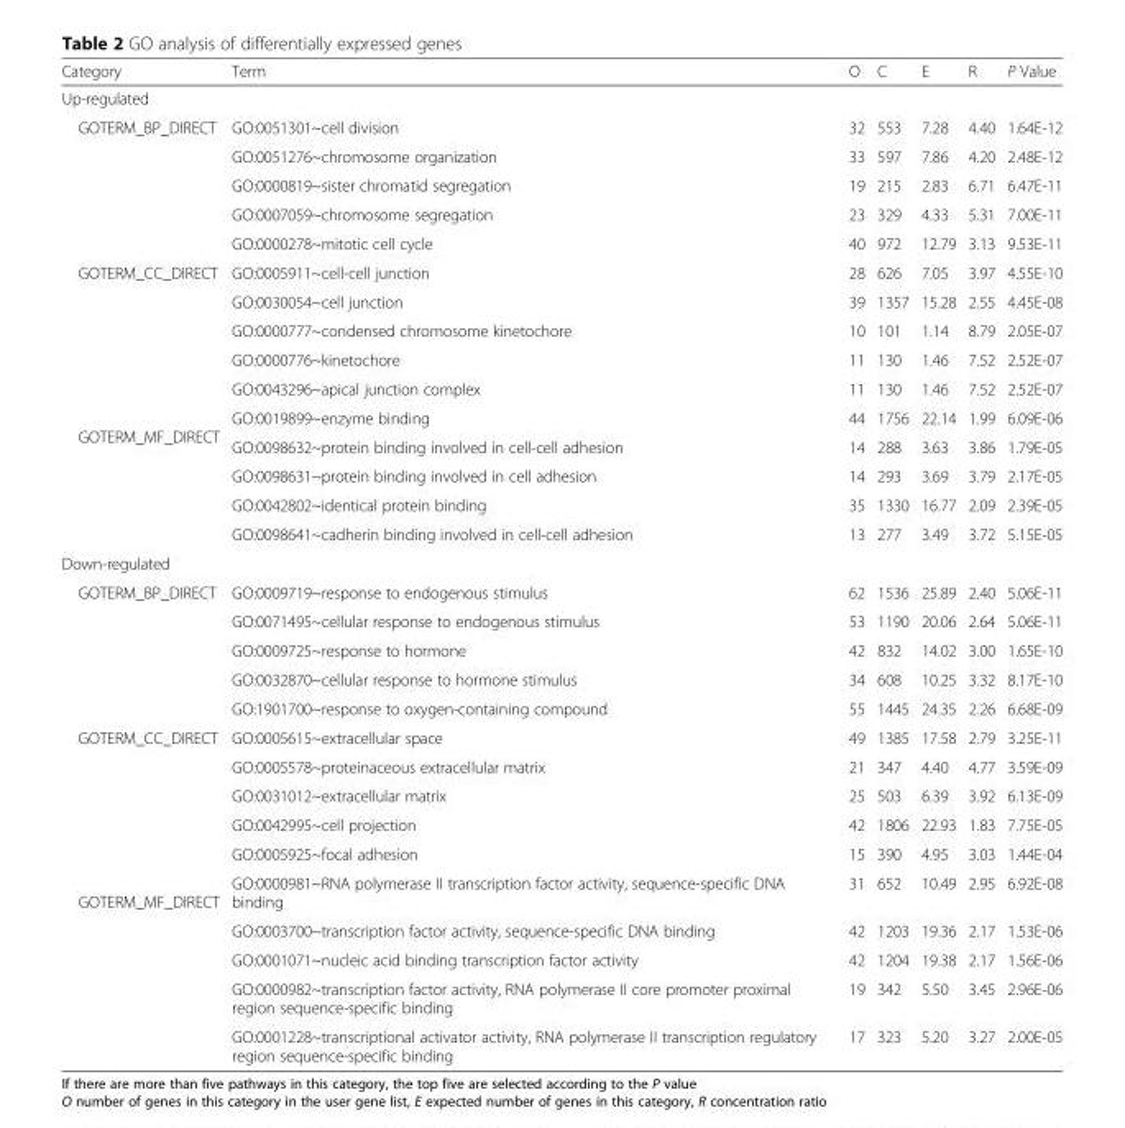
<table><thead><tr><td>Category</td><td>Term</td><td>O</td><td>C</td><td>E</td><td>R</td><td>P Value</td></tr></thead><tbody><tr><td colspan="7">Up-regulated</td></tr><tr><td rowspan="5">GOTERM_BP_DIRECT</td><td>GO:0051301~cell division</td><td>32</td><td>553</td><td>7.28</td><td>4.40</td><td>1.64E-12</td></tr><tr><td>GO:0051276~chromosome organization</td><td>33</td><td>597</td><td>7.86</td><td>4.20</td><td>2.48E-12</td></tr><tr><td>GO:0000819~sister chromatid segregation</td><td>19</td><td>215</td><td>2.83</td><td>6.71</td><td>6.47E-11</td></tr><tr><td>GO:0007059~chromosome segregation</td><td>23</td><td>329</td><td>4.33</td><td>5.31</td><td>7.00E-11</td></tr><tr><td>GO:0000278~mitotic cell cycle</td><td>40</td><td>972</td><td>12.79</td><td>3.13</td><td>9.53E-11</td></tr><tr><td rowspan="5">GOTERM_CC_DIRECT</td><td>GO:0005911~cell-cell junction</td><td>28</td><td>626</td><td>7.05</td><td>3.97</td><td>4.55E-10</td></tr><tr><td>GO:0030054~cell junction</td><td>39</td><td>1357</td><td>15.28</td><td>2.55</td><td>4.45E-08</td></tr><tr><td>GO:0000777~condensed chromosome kinetochore</td><td>10</td><td>101</td><td>1.14</td><td>8.79</td><td>2.05E-07</td></tr><tr><td>GO:0000776~kinetochore</td><td>11</td><td>130</td><td>1.46</td><td>7.52</td><td>2.52E-07</td></tr><tr><td>GO:0043296~apical junction complex</td><td>11</td><td>130</td><td>1.46</td><td>7.52</td><td>2.52E-07</td></tr><tr><td rowspan="5">GOTERM_MF_DIRECT</td><td>GO:0019899~enzyme binding</td><td>44</td><td>1756</td><td>22.14</td><td>1.99</td><td>6.09E-06</td></tr><tr><td>GO:0098632~protein binding involved in cell-cell adhesion</td><td>14</td><td>288</td><td>3.63</td><td>3.86</td><td>1.79E-05</td></tr><tr><td>GO:0098631~protein binding involved in cell adhesion</td><td>14</td><td>293</td><td>3.69</td><td>3.79</td><td>2.17E-05</td></tr><tr><td>GO:0042802~identical protein binding</td><td>35</td><td>1330</td><td>16.77</td><td>2.09</td><td>2.39E-05</td></tr><tr><td>GO:0098641~cadherin binding involved in cell-cell adhesion</td><td>13</td><td>277</td><td>3.49</td><td>3.72</td><td>5.15E-05</td></tr><tr><td colspan="7">Down-regulated</td></tr><tr><td rowspan="5">GOTERM_BP_DIRECT</td><td>GO:0009719~response to endogenous stimulus</td><td>62</td><td>1536</td><td>25.89</td><td>2.40</td><td>5.06E-11</td></tr><tr><td>GO:0071495~cellular response to endogenous stimulus</td><td>53</td><td>1190</td><td>20.06</td><td>2.64</td><td>5.06E-11</td></tr><tr><td>GO:0009725~response to hormone</td><td>42</td><td>832</td><td>14.02</td><td>3.00</td><td>1.65E-10</td></tr><tr><td>GO:0032870~cellular response to hormone stimulus</td><td>34</td><td>608</td><td>10.25</td><td>3.32</td><td>8.17E-10</td></tr><tr><td>GO:1901700~response to oxygen-containing compound</td><td>55</td><td>1445</td><td>24.35</td><td>2.26</td><td>6.68E-09</td></tr><tr><td rowspan="5">GOTERM_CC_DIRECT</td><td>GO:0005615~extracellular space</td><td>49</td><td>1385</td><td>17.58</td><td>2.79</td><td>3.25E-11</td></tr><tr><td>GO:0005578~proteinaceous extracellular matrix</td><td>21</td><td>347</td><td>4.40</td><td>4.77</td><td>3.59E-09</td></tr><tr><td>GO:0031012~extracellular matrix</td><td>25</td><td>503</td><td>6.39</td><td>3.92</td><td>6.13E-09</td></tr><tr><td>GO:0042995~cell projection</td><td>42</td><td>1806</td><td>22.93</td><td>1.83</td><td>7.75E-05</td></tr><tr><td>GO:0005925~focal adhesion</td><td>15</td><td>390</td><td>4.95</td><td>3.03</td><td>1.44E-04</td></tr><tr><td rowspan="5">GOTERM_MF_DIRECT</td><td>GO:0000981~RNA polymerase II transcription factor activity, sequence-specific DNA binding</td><td>31</td><td>652</td><td>10.49</td><td>2.95</td><td>6.92E-08</td></tr><tr><td>GO:0003700~transcription factor activity, sequence-specific DNA binding</td><td>42</td><td>1203</td><td>19.36</td><td>2.17</td><td>1.53E-06</td></tr><tr><td>GO:0001071~nucleic acid binding transcription factor activity</td><td>42</td><td>1204</td><td>19.38</td><td>2.17</td><td>1.56E-06</td></tr><tr><td>GO:0000982~transcription factor activity, RNA polymerase II core promoter proximal region sequence-specific binding</td><td>19</td><td>342</td><td>5.50</td><td>3.45</td><td>2.96E-06</td></tr><tr><td>GO:0001228~transcriptional activator activity, RNA polymerase II transcription regulatory region sequence-specific binding</td><td>17</td><td>323</td><td>5.20</td><td>3.27</td><td>2.00E-05</td></tr></tbody></table>